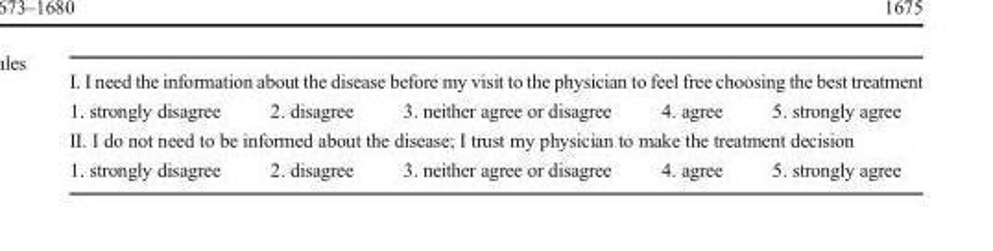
<table><tbody><tr><td colspan="5">I. I need the information about the disease before my visit to the physician to feel free choosing the best treatment</td></tr><tr><td>1. strongly disagree</td><td>2. disagree</td><td>3. neither agree or disagree</td><td>4. agree</td><td>5. strongly agree</td></tr><tr><td colspan="5">II. I do not need to be informed about the disease; I trust my physician to make the treatment decision</td></tr><tr><td>1. strongly disagree</td><td>2. disagree</td><td>3. neither agree or disagree</td><td>4. agree</td><td>5. strongly agree</td></tr></tbody></table>